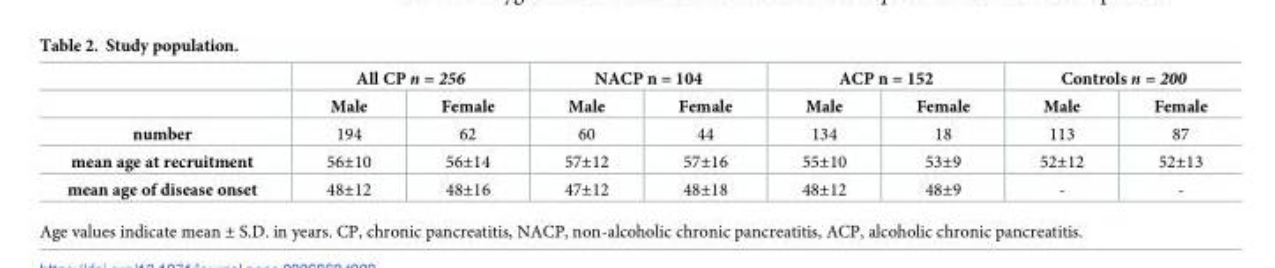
<table><thead><tr><td rowspan="2"></td><td colspan="2">All CP n = 256</td><td colspan="2">NACP n = 104</td><td colspan="2">ACP n = 152</td><td colspan="2">Controls n = 200</td></tr><tr><td>Male</td><td>Female</td><td>Male</td><td>Female</td><td>Male</td><td>Female</td><td>Male</td><td>Female</td></tr></thead><tbody><tr><td>number</td><td>194</td><td>62</td><td>60</td><td>44</td><td>134</td><td>18</td><td>113</td><td>87</td></tr><tr><td>mean age at recruitment</td><td>56±10</td><td>56±14</td><td>57±12</td><td>57±16</td><td>55±10</td><td>53±9</td><td>52±12</td><td>52±13</td></tr><tr><td>mean age of disease onset</td><td>48±12</td><td>48±16</td><td>47±12</td><td>48±18</td><td>48±12</td><td>48±9</td><td>-</td><td>-</td></tr></tbody></table>